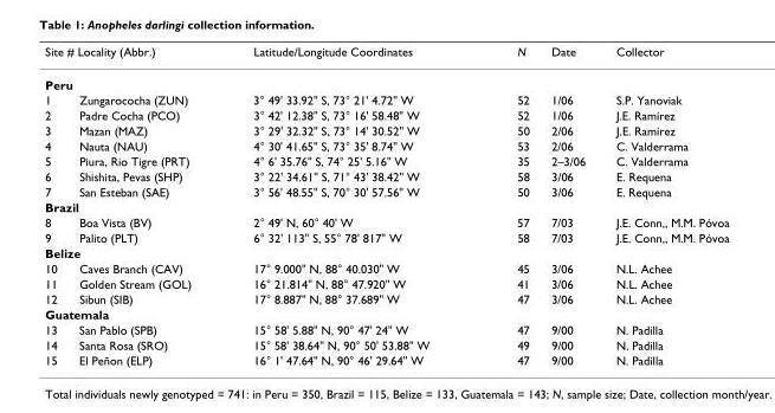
<table><thead><tr><td rowspan="2" colspan="2">Site # Locality (Abbr.) Peru</td><td rowspan="3">Latitude/Longitude Coordinates 3° 49&#x27; 33.92&quot; S, 73° 21&#x27; 4.72&quot; W</td><td rowspan="3">N 52</td><td rowspan="3">Date 1/06</td><td rowspan="3">Collector S.P. Yanoviak</td></tr><tr></tr><tr><td>1</td><td>Zungarococha (ZUN)</td></tr></thead><tbody><tr><td>2</td><td>Padre Cocha (PCO)</td><td>3° 42&#x27; 12.38&quot; S, 73° 16&#x27; 58.48&quot; W</td><td>52</td><td>1/06</td><td>J.E. Ramírez</td></tr><tr><td>3</td><td>Mazan (MAZ)</td><td>3° 29&#x27; 32.32&quot; S, 73° 14&#x27; 30.52&quot; W</td><td>50</td><td>2/06</td><td>J.E. Ramírez</td></tr><tr><td>4</td><td>Nauta (NAU)</td><td>4° 30&#x27; 41.65&quot; S, 73° 35&#x27; 8.74&quot; W</td><td>53</td><td>2/06</td><td>C. Valderrama</td></tr><tr><td>5</td><td>Piura, Rio Tigre (PRT)</td><td>4° 6&#x27; 35.76&quot; S, 74° 25&#x27; 5.16&quot; W</td><td>35</td><td>2–3/06</td><td>C. Valderrama</td></tr><tr><td>6</td><td>Shishita, Pevas (SHP)</td><td>3° 22&#x27; 34.61&quot; S, 71° 43&#x27; 38.42&quot; W</td><td>58</td><td>3/06</td><td>E. Requena</td></tr><tr><td>7</td><td>San Esteban (SAE)</td><td>3° 56&#x27; 48.55&quot; S, 70° 30&#x27; 57.56&quot; W</td><td>50</td><td>3/06</td><td>E. Requena</td></tr><tr><td colspan="6">Brazil</td></tr><tr><td>8</td><td>Boa Vista (BV)</td><td>2° 49&#x27; N, 60° 40&#x27; W</td><td>57</td><td>7/03</td><td>J.E. Conn,, M.M. Póvoa</td></tr><tr><td>9</td><td>Palito (PLT)</td><td>6° 32&#x27; 113&quot; S, 55° 78&#x27; 817&quot; W</td><td>58</td><td>7/03</td><td>J.E. Conn,, M.M. Póvoa</td></tr><tr><td colspan="6">Belize</td></tr><tr><td>10</td><td>Caves Branch (CAV)</td><td>17° 9.000&quot; N, 88° 40.030&quot; W</td><td>45</td><td>3/06</td><td>N.L. Achee</td></tr><tr><td>11</td><td>Golden Stream (GOL)</td><td>16° 21.814&quot; N, 88° 47.920&quot; W</td><td>41</td><td>3/06</td><td>N.L. Achee</td></tr><tr><td>12</td><td>Sibun (SIB)</td><td>17° 8.887&quot; N, 88° 37.689&quot; W</td><td>47</td><td>3/06</td><td>N.L. Achee</td></tr><tr><td colspan="6">Guatemala</td></tr><tr><td>13</td><td>San Pablo (SPB)</td><td>15° 58&#x27; 5.88&quot; N, 90° 47&#x27; 24&quot; W</td><td>47</td><td>9/00</td><td>N. Padilla</td></tr><tr><td>14</td><td>Santa Rosa (SRO)</td><td>15° 58&#x27; 38.64&quot; N, 90° 50&#x27; 53.88&quot; W</td><td>49</td><td>9/00</td><td>N. Padilla</td></tr><tr><td>15</td><td>El Peñon (ELP)</td><td>16° 1&#x27; 47.64&quot; N, 90° 46&#x27; 29.64&quot; W</td><td>47</td><td>9/00</td><td>N. Padilla</td></tr></tbody></table>